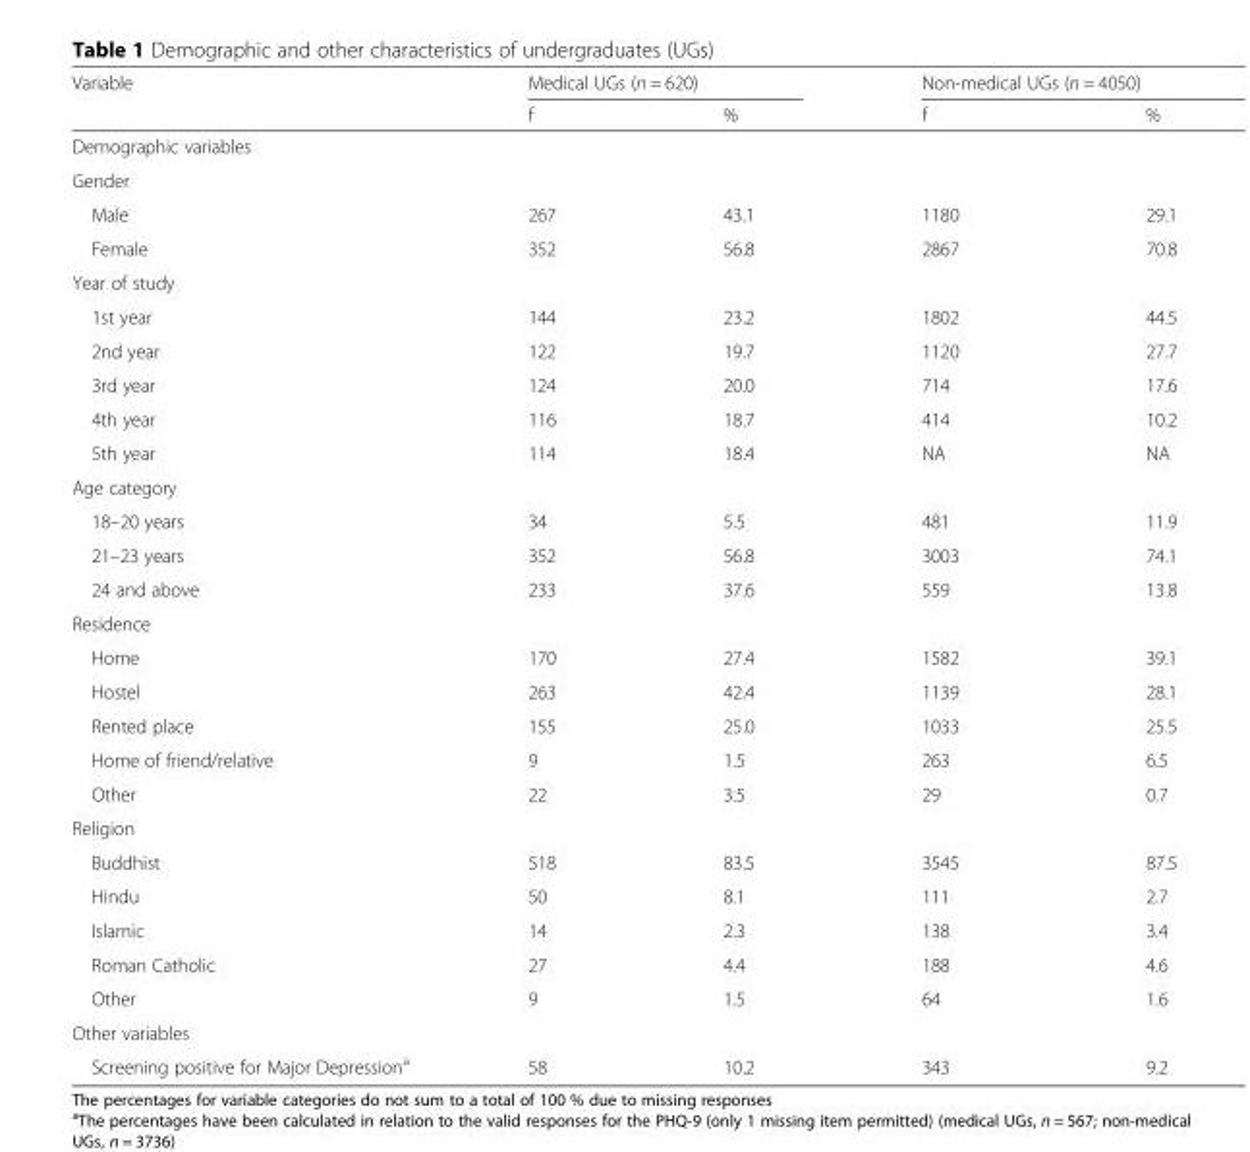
<table><thead><tr><td rowspan="2">Variable</td><td colspan="2">Medical UGs (n = 620)</td><td colspan="2">Non-medical UGs (n = 4050)</td></tr><tr><td>f</td><td>%</td><td>f</td><td>%</td></tr></thead><tbody><tr><td colspan="5">Demographic variables</td></tr><tr><td colspan="5">Gender</td></tr><tr><td>Male</td><td>267</td><td>43.1</td><td>1180</td><td>29.1</td></tr><tr><td>Female</td><td>352</td><td>56.8</td><td>2867</td><td>70.8</td></tr><tr><td colspan="5">Year of study</td></tr><tr><td>1st year</td><td>144</td><td>23.2</td><td>1802</td><td>44.5</td></tr><tr><td>2nd year</td><td>122</td><td>19.7</td><td>1120</td><td>27.7</td></tr><tr><td>3rd year</td><td>124</td><td>20.0</td><td>714</td><td>17.6</td></tr><tr><td>4th year</td><td>116</td><td>18.7</td><td>414</td><td>10.2</td></tr><tr><td>5th year</td><td>114</td><td>18.4</td><td>NA</td><td>NA</td></tr><tr><td colspan="5">Age category</td></tr><tr><td>18–20 years</td><td>34</td><td>5.5</td><td>481</td><td>11.9</td></tr><tr><td>21–23 years</td><td>352</td><td>56.8</td><td>3003</td><td>74.1</td></tr><tr><td>24 and above</td><td>233</td><td>37.6</td><td>559</td><td>13.8</td></tr><tr><td colspan="5">Residence</td></tr><tr><td>Home</td><td>170</td><td>27.4</td><td>1582</td><td>39.1</td></tr><tr><td>Hostel</td><td>263</td><td>42.4</td><td>1139</td><td>28.1</td></tr><tr><td>Rented place</td><td>155</td><td>25.0</td><td>1033</td><td>25.5</td></tr><tr><td>Home of friend/relative</td><td>9</td><td>1.5</td><td>263</td><td>6.5</td></tr><tr><td>Other</td><td>22</td><td>3.5</td><td>29</td><td>0.7</td></tr><tr><td colspan="5">Religion</td></tr><tr><td>Buddhist</td><td>518</td><td>83.5</td><td>3545</td><td>87.5</td></tr><tr><td>Hindu</td><td>50</td><td>8.1</td><td>111</td><td>2.7</td></tr><tr><td>Islamic</td><td>14</td><td>2.3</td><td>138</td><td>3.4</td></tr><tr><td>Roman Catholic</td><td>27</td><td>4.4</td><td>188</td><td>4.6</td></tr><tr><td>Other</td><td>9</td><td>1.5</td><td>64</td><td>1.6</td></tr><tr><td colspan="5">Other variables</td></tr><tr><td>Screening positive for Major Depression<sup>a</sup></td><td>58</td><td>10.2</td><td>343</td><td>9.2</td></tr></tbody></table>